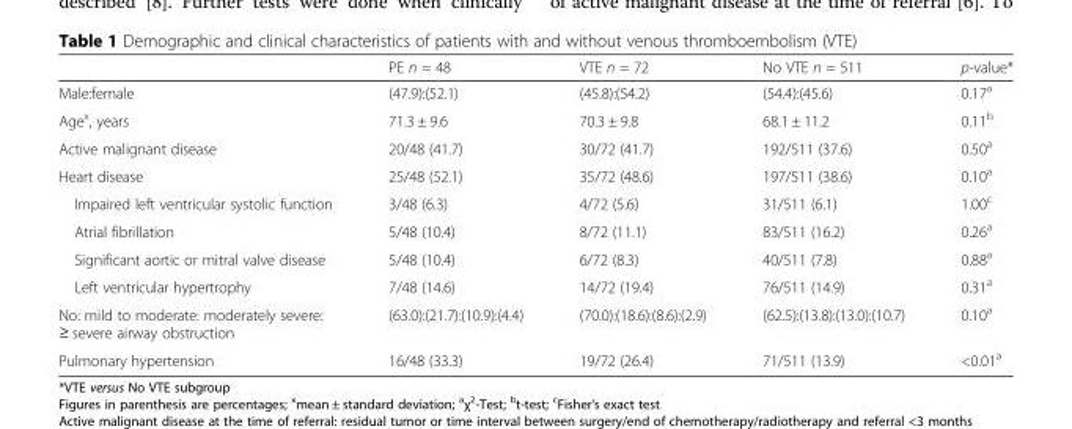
<table><thead><tr><td></td><td>PE n = 48</td><td>VTE n = 72</td><td>No VTE n = 511</td><td>p-value*</td></tr></thead><tbody><tr><td>Male:female</td><td>(47.9):(52.1)</td><td>(45.8):(54.2)</td><td>(54.4):(45.6)</td><td>0.17<sup>a</sup></td></tr><tr><td>Age<sup>x</sup>, years</td><td>71.3 ± 9.6</td><td>70.3 ± 9.8</td><td>68.1 ± 11.2</td><td>0.11<sup>b</sup></td></tr><tr><td>Active malignant disease</td><td>20/48 (41.7)</td><td>30/72 (41.7)</td><td>192/511 (37.6)</td><td>0.50<sup>a</sup></td></tr><tr><td>Heart disease</td><td>25/48 (52.1)</td><td>35/72 (48.6)</td><td>197/511 (38.6)</td><td>0.10<sup>a</sup></td></tr><tr><td>Impaired left ventricular systolic function</td><td>3/48 (6.3)</td><td>4/72 (5.6)</td><td>31/511 (6.1)</td><td>1.00<sup>c</sup></td></tr><tr><td>Atrial fibrillation</td><td>5/48 (10.4)</td><td>8/72 (11.1)</td><td>83/511 (16.2)</td><td>0.26<sup>a</sup></td></tr><tr><td>Significant aortic or mitral valve disease</td><td>5/48 (10.4)</td><td>6/72 (8.3)</td><td>40/511 (7.8)</td><td>0.88<sup>a</sup></td></tr><tr><td>Left ventricular hypertrophy</td><td>7/48 (14.6)</td><td>14/72 (19.4)</td><td>76/511 (14.9)</td><td>0.31<sup>a</sup></td></tr><tr><td>No: mild to moderate: moderately severe: ≥ severe airway obstruction</td><td>(63.0):(21.7):(10.9):(4.4)</td><td>(70.0):(18.6):(8.6):(2.9)</td><td>(62.5):(13.8):(13.0):(10.7)</td><td>0.10<sup>a</sup></td></tr><tr><td>Pulmonary hypertension</td><td>16/48 (33.3)</td><td>19/72 (26.4)</td><td>71/511 (13.9)</td><td>&lt;0.01<sup>a</sup></td></tr></tbody></table>